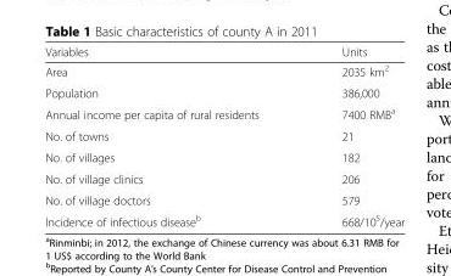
<table><thead><tr><td>Variables</td><td>Units</td></tr></thead><tbody><tr><td>Area</td><td>2035 km<sup>2</sup></td></tr><tr><td>Population</td><td>386,000</td></tr><tr><td>Annual income per capita of rural residents</td><td>7400 RMB<sup>a</sup></td></tr><tr><td>No. of towns</td><td>21</td></tr><tr><td>No. of villages</td><td>182</td></tr><tr><td>No. of village clinics</td><td>206</td></tr><tr><td>No. of village doctors</td><td>579</td></tr><tr><td>Incidence of infectious disease<sup>b</sup></td><td>668/10<sup>5</sup>/year</td></tr></tbody></table>